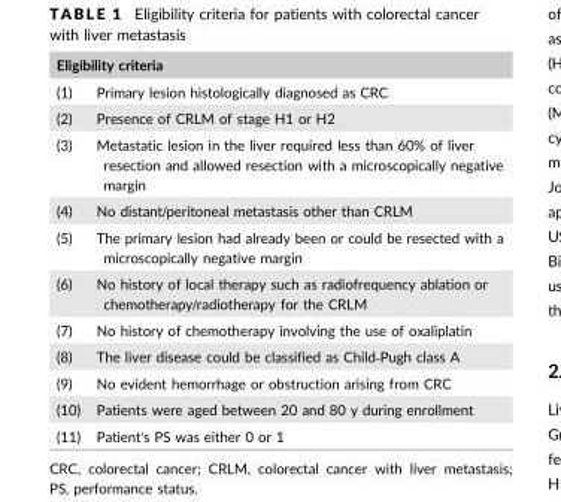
<table><thead><tr><td colspan="2">Eligibility criteria</td></tr><tr><td>(1)</td><td>Primary lesion histologically diagnosed as CRC</td></tr></thead><tbody><tr><td>(2)</td><td>Presence of CRLM of stage H1 or H2</td></tr><tr><td>(3)</td><td>Metastatic lesion in the liver required less than 60% of liver resection and allowed resection with a microscopically negative margin</td></tr><tr><td>(4)</td><td>No distant/peritoneal metastasis other than CRLM</td></tr><tr><td>(5)</td><td>The primary lesion had already been or could be resected with a microscopically negative margin</td></tr><tr><td>(6)</td><td>No history of local therapy such as radiofrequency ablation or chemotherapy/radiotherapy for the CRLM</td></tr><tr><td>(7)</td><td>No history of chemotherapy involving the use of oxaliplatin</td></tr><tr><td>(8)</td><td>The liver disease could be classified as Child‐Pugh class A</td></tr><tr><td>(9)</td><td>No evident hemorrhage or obstruction arising from CRC</td></tr><tr><td>(10)</td><td>Patients were aged between 20 and 80 y during enrollment</td></tr><tr><td>(11)</td><td>Patient&#x27;s PS was either 0 or 1</td></tr></tbody></table>